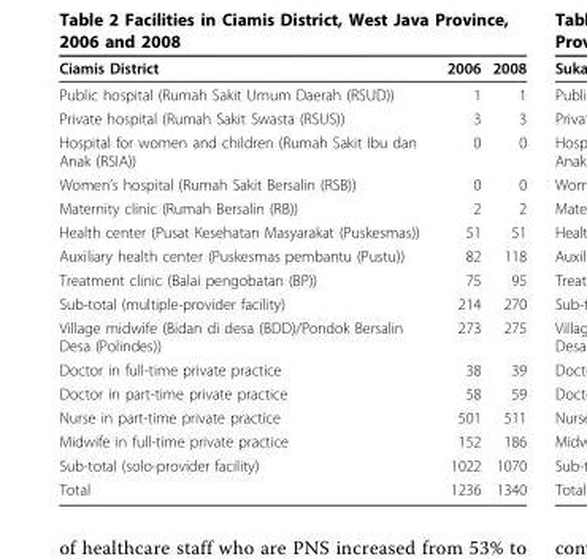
<table><thead><tr><td>Ciamis District</td><td>2006</td><td>2008</td></tr></thead><tbody><tr><td>Public hospital (Rumah Sakit Umum Daerah (RSUD))</td><td>1</td><td>1</td></tr><tr><td>Private hospital (Rumah Sakit Swasta (RSUS))</td><td>3</td><td>3</td></tr><tr><td>Hospital for women and children (Rumah Sakit Ibu dan Anak (RSIA))</td><td>0</td><td>0</td></tr><tr><td>Women’s hospital (Rumah Sakit Bersalin (RSB))</td><td>0</td><td>0</td></tr><tr><td>Maternity clinic (Rumah Bersalin (RB))</td><td>2</td><td>2</td></tr><tr><td>Health center (Pusat Kesehatan Masyarakat (Puskesmas))</td><td>51</td><td>51</td></tr><tr><td>Auxiliary health center (Puskesmas pembantu (Pustu))</td><td>82</td><td>118</td></tr><tr><td>Treatment clinic (Balai pengobatan (BP))</td><td>75</td><td>95</td></tr><tr><td>Sub-total (multiple-provider facility)</td><td>214</td><td>270</td></tr><tr><td>Village midwife (Bidan di desa (BDD)/Pondok Bersalin Desa (Polindes))</td><td>273</td><td>275</td></tr><tr><td>Doctor in full-time private practice</td><td>38</td><td>39</td></tr><tr><td>Doctor in part-time private practice</td><td>58</td><td>59</td></tr><tr><td>Nurse in part-time private practice</td><td>501</td><td>511</td></tr><tr><td>Midwife in full-time private practice</td><td>152</td><td>186</td></tr><tr><td>Sub-total (solo-provider facility)</td><td>1022</td><td>1070</td></tr><tr><td>Total</td><td>1236</td><td>1340</td></tr></tbody></table>